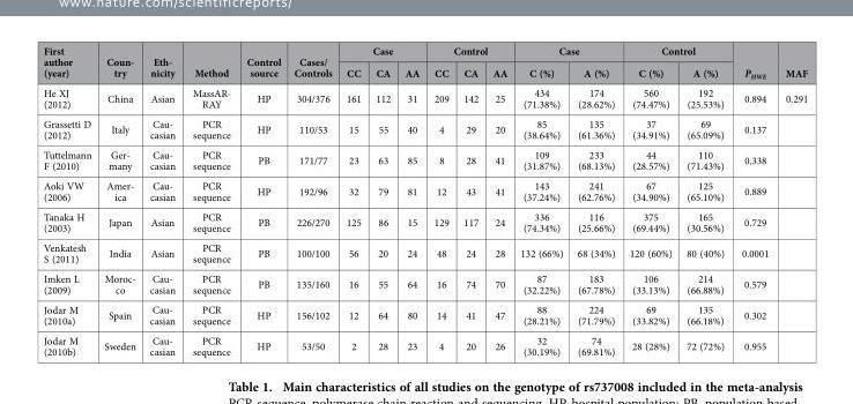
<table><thead><tr><td rowspan="2">First author (year)</td><td rowspan="2">Coun- try</td><td rowspan="2">Eth- nicity</td><td rowspan="2">Method</td><td rowspan="2">Control source</td><td rowspan="2">Cases/ Controls</td><td colspan="3">Case</td><td colspan="3">Control</td><td colspan="2">Case</td><td colspan="2">Control</td><td rowspan="2">P<sub>HWE</sub></td><td rowspan="2">MAF</td></tr><tr><td>CC</td><td>CA</td><td>AA</td><td>CC</td><td>CA</td><td>AA</td><td>C (%)</td><td>A (%)</td><td>C (%)</td><td>A (%)</td></tr></thead><tbody><tr><td>He XJ (2012)</td><td>China</td><td>Asian</td><td>MassAR- RAY</td><td>HP</td><td>304/376</td><td>161</td><td>112</td><td>31</td><td>209</td><td>142</td><td>25</td><td>434 (71.38%)</td><td>174 (28.62%)</td><td>560 (74.47%)</td><td>192 (25.53%)</td><td>0.894</td><td>0.291</td></tr><tr><td>Grassetti D (2012)</td><td>Italy</td><td>Cau- casian</td><td>PCR sequence</td><td>HP</td><td>110/53</td><td>15</td><td>55</td><td>40</td><td>4</td><td>29</td><td>20</td><td>85 (38.64%)</td><td>135 (61.36%)</td><td>37 (34.91%)</td><td>69 (65.09%)</td><td>0.137</td><td></td></tr><tr><td>Tuttelmann F (2010)</td><td>Ger- many</td><td>Cau- casian</td><td>PCR sequence</td><td>PB</td><td>171/77</td><td>23</td><td>63</td><td>85</td><td>8</td><td>28</td><td>41</td><td>109 (31.87%)</td><td>233 (68.13%)</td><td>44 (28.57%)</td><td>110 (71.43%)</td><td>0.338</td><td></td></tr><tr><td>Aoki VW (2006)</td><td>Amer- ica</td><td>Cau- casian</td><td>PCR sequence</td><td>HP</td><td>192/96</td><td>32</td><td>79</td><td>81</td><td>12</td><td>43</td><td>41</td><td>143 (37.24%)</td><td>241 (62.76%)</td><td>67 (34.90%)</td><td>125 (65.10%)</td><td>0.889</td><td></td></tr><tr><td>Tanaka H (2003)</td><td>Japan</td><td>Asian</td><td>PCR sequence</td><td>PB</td><td>226/270</td><td>125</td><td>86</td><td>15</td><td>129</td><td>117</td><td>24</td><td>336 (74.34%)</td><td>116 (25.66%)</td><td>375 (69.44%)</td><td>165 (30.56%)</td><td>0.729</td><td></td></tr><tr><td>Venkatesh S (2011)</td><td>India</td><td>Asian</td><td>PCR sequence</td><td>PB</td><td>100/100</td><td>56</td><td>20</td><td>24</td><td>48</td><td>24</td><td>28</td><td>132 (66%)</td><td>68 (34%)</td><td>120 (60%)</td><td>80 (40%)</td><td>0.0001</td><td></td></tr><tr><td>Imken L (2009)</td><td>Moroc- co</td><td>Cau- casian</td><td>PCR sequence</td><td>PB</td><td>135/160</td><td>16</td><td>55</td><td>64</td><td>16</td><td>74</td><td>70</td><td>87 (32.22%)</td><td>183 (67.78%)</td><td>106 (33.13%)</td><td>214 (66.88%)</td><td>0.579</td><td></td></tr><tr><td>Jodar M (2010a)</td><td>Spain</td><td>Cau- casian</td><td>PCR sequence</td><td>HP</td><td>156/102</td><td>12</td><td>64</td><td>80</td><td>14</td><td>41</td><td>47</td><td>88 (28.21%)</td><td>224 (71.79%)</td><td>69 (33.82%)</td><td>135 (66.18%)</td><td>0.302</td><td></td></tr><tr><td>Jodar M (2010b)</td><td>Sweden</td><td>Cau- casian</td><td>PCR sequence</td><td>HP</td><td>53/50</td><td>2</td><td>28</td><td>23</td><td>4</td><td>20</td><td>26</td><td>32 (30.19%)</td><td>74 (69.81%)</td><td>28 (28%)</td><td>72 (72%)</td><td>0.955</td><td></td></tr></tbody></table>